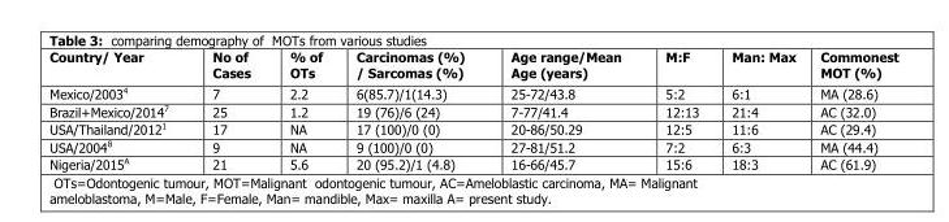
<table><thead><tr><td>Country/ Year</td><td>No of Cases</td><td>% of OTs</td><td>Carcinomas (%) / Sarcomas (%)</td><td>Age range/Mean Age (years)</td><td>M:F</td><td>Man: Max</td><td>Commonest MOT (%)</td></tr></thead><tbody><tr><td>Mexico/2003<sup>4</sup></td><td>7</td><td>2.2</td><td>6(85.7)/1(14.3)</td><td>25-72/43.8</td><td>5:2</td><td>6:1</td><td>MA (28.6)</td></tr><tr><td>Brazil+Mexico/2014<sup>7</sup></td><td>25</td><td>1.2</td><td>19 (76)/6 (24)</td><td>7-77/41.4</td><td>12:13</td><td>21:4</td><td>AC (32.0)</td></tr><tr><td>USA/Thailand/2012<sup>1</sup></td><td>17</td><td>NA</td><td>17 (100)/0 (0)</td><td>20-86/50.29</td><td>12:5</td><td>11:6</td><td>AC (29.4)</td></tr><tr><td>USA/2004<sup>8</sup></td><td>9</td><td>NA</td><td>9 (100)/0 (0)</td><td>27-81/51.2</td><td>7:2</td><td>6:3</td><td>MA (44.4)</td></tr><tr><td>Nigeria/2015<sup>A</sup></td><td>21</td><td>5.6</td><td>20 (95.2)/1 (4.8)</td><td>16-66/45.7</td><td>15:6</td><td>18:3</td><td>AC (61.9)</td></tr></tbody></table>